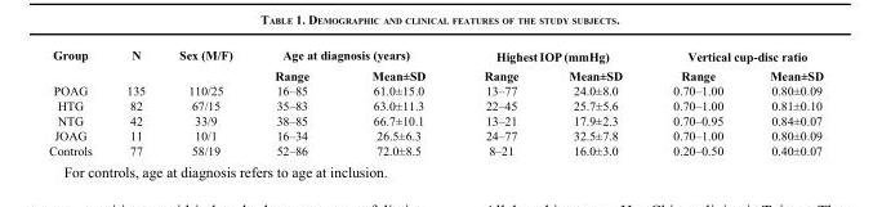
<table><thead><tr><td rowspan="2">Group</td><td rowspan="2">N</td><td rowspan="2">Sex (M/F)</td><td colspan="2">Age at diagnosis (years)</td><td colspan="2">Highest IOP (mmHg)</td><td colspan="2">Vertical cup-disc ratio</td></tr><tr><td>Range</td><td>Mean±SD</td><td>Range</td><td>Mean±SD</td><td>Range</td><td>Mean±SD</td></tr></thead><tbody><tr><td>POAG</td><td>135</td><td>110/25</td><td>16–85</td><td>61.0±15.0</td><td>13–77</td><td>24.0±8.0</td><td>0.70–1.00</td><td>0.80±0.09</td></tr><tr><td>HTG</td><td>82</td><td>67/15</td><td>35–83</td><td>63.0±11.3</td><td>22–45</td><td>25.7±5.6</td><td>0.70–1.00</td><td>0.81±0.10</td></tr><tr><td>NTG</td><td>42</td><td>33/9</td><td>38–85</td><td>66.7±10.1</td><td>13–21</td><td>17.9±2.3</td><td>0.70–0.95</td><td>0.84±0.07</td></tr><tr><td>JOAG</td><td>11</td><td>10/1</td><td>16–34</td><td>26.5±6.3</td><td>24–77</td><td>32.5±7.8</td><td>0.70–1.00</td><td>0.80±0.09</td></tr><tr><td>Controls</td><td>77</td><td>58/19</td><td>52–86</td><td>72.0±8.5</td><td>8–21</td><td>16.0±3.0</td><td>0.20–0.50</td><td>0.40±0.07</td></tr></tbody></table>